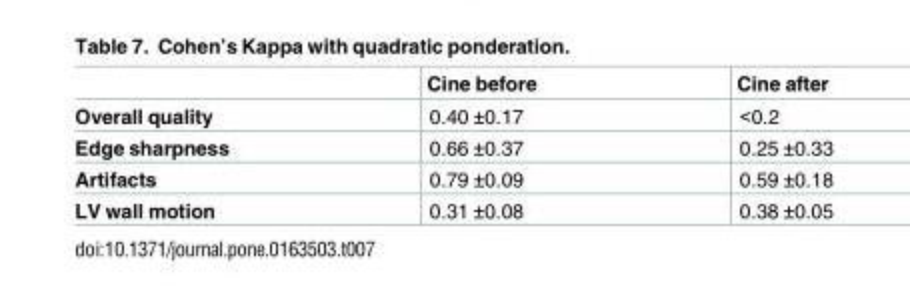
<table><thead><tr><td></td><td>Cine before</td><td>Cine after</td></tr></thead><tbody><tr><td>Overall quality</td><td>0.40 ±0.17</td><td>&lt;0.2</td></tr><tr><td>Edge sharpness</td><td>0.66 ±0.37</td><td>0.25 ±0.33</td></tr><tr><td>Artifacts</td><td>0.79 ±0.09</td><td>0.59 ±0.18</td></tr><tr><td>LV wall motion</td><td>0.31 ±0.08</td><td>0.38 ±0.05</td></tr></tbody></table>